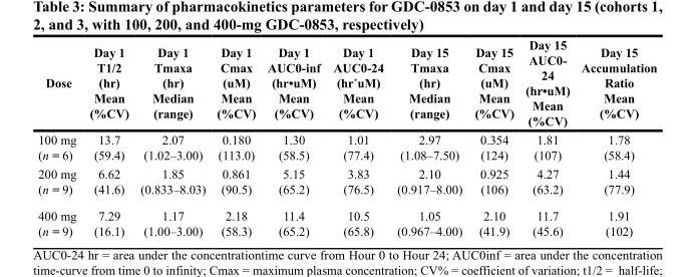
<table><thead><tr><td>Dose</td><td>Day 1 T1/2 (hr) Mean (%CV)</td><td>Day 1 Tmaxa (hr) Median (range)</td><td>Day 1 Cmax (uM) Mean (%CV)</td><td>Day 1 AUC0-inf (hr•uM) Mean (%CV)</td><td>Day 1 AUC0-24 (hr*uM) Mean (%CV)</td><td>Day 15 Tmaxa (hr) Median (range)</td><td>Day 15 Cmax (uM) Mean (%CV)</td><td>Day 15 AUC0- 24 (hr•uM) Mean (%CV)</td><td>Day 15 Accumulation Ratio Mean (%CV)</td></tr></thead><tbody><tr><td>100 mg (n = 6)</td><td>13.7 (59.4)</td><td>2.07 (1.02–3.00)</td><td>0.180 (113.0)</td><td>1.30 (58.5)</td><td>1.01 (77.4)</td><td>2.97 (1.08–7.50)</td><td>0.354 (124)</td><td>1.81 (107)</td><td>1.78 (58.4)</td></tr><tr><td>200 mg (n = 9)</td><td>6.62 (41.6)</td><td>1.85 (0.833–8.03)</td><td>0.861 (90.5)</td><td>5.15 (65.2)</td><td>3.83 (76.5)</td><td>2.10 (0.917–8.00)</td><td>0.925 (106)</td><td>4.27 (63.2)</td><td>1.44 (77.9)</td></tr><tr><td>400 mg (n = 9)</td><td>7.29 (16.1)</td><td>1.17 (1.00–3.00)</td><td>2.18 (58.3)</td><td>11.4 (65.2)</td><td>10.5 (65.8)</td><td>1.05 (0.967–4.00)</td><td>2.10 (41.9)</td><td>11.7 (45.6)</td><td>1.91 (102)</td></tr></tbody></table>